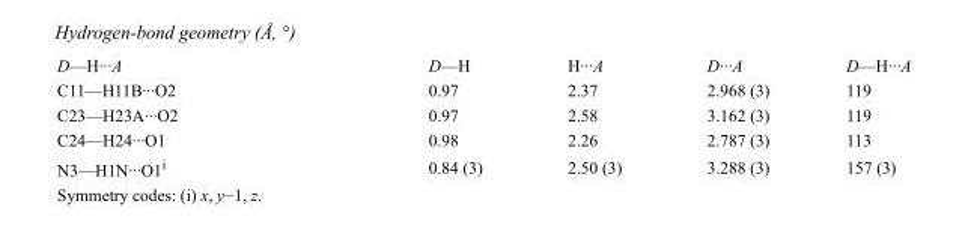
<table><tbody><tr><td>D—H···A</td><td>D—H</td><td>H···A</td><td>D···A</td><td>D—H···A</td></tr><tr><td>C11—H11B···O2</td><td>0.97</td><td>2.37</td><td>2.968 (3)</td><td>119</td></tr><tr><td>C23—H23A···O2</td><td>0.97</td><td>2.58</td><td>3.162 (3)</td><td>119</td></tr><tr><td>C24—H24···O1</td><td>0.98</td><td>2.26</td><td>2.787 (3)</td><td>113</td></tr><tr><td>N3—H1N···O1<sup>i</sup></td><td>0.84 (3)</td><td>2.50 (3)</td><td>3.288 (3)</td><td>157 (3)</td></tr></tbody></table>